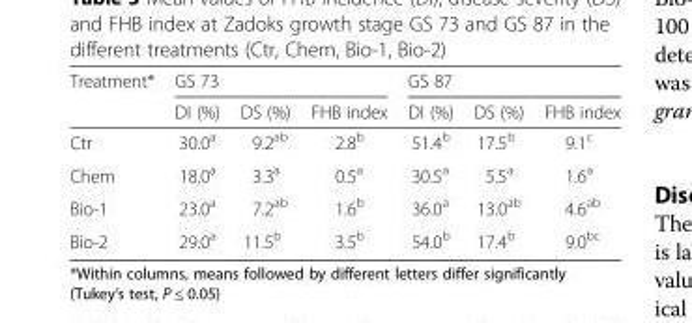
<table><thead><tr><td rowspan="2">Treatment*</td><td colspan="3">GS 73</td><td colspan="3">GS 87</td></tr><tr><td>DI (%)</td><td>DS (%)</td><td>FHB index</td><td>DI (%)</td><td>DS (%)</td><td>FHB index</td></tr></thead><tbody><tr><td>Ctr</td><td>30.0<sup>a</sup></td><td>9.2<sup>ab</sup></td><td>2.8<sup>b</sup></td><td>51.4<sup>b</sup></td><td>17.5<sup>b</sup></td><td>9.1<sup>c</sup></td></tr><tr><td>Chem</td><td>18.0<sup>a</sup></td><td>3.3<sup>a</sup></td><td>0.5<sup>a</sup></td><td>30.5<sup>a</sup></td><td>5.5<sup>a</sup></td><td>1.6<sup>a</sup></td></tr><tr><td>Bio-1</td><td>23.0<sup>a</sup></td><td>7.2<sup>ab</sup></td><td>1.6<sup>b</sup></td><td>36.0<sup>a</sup></td><td>13.0<sup>ab</sup></td><td>4.6<sup>ab</sup></td></tr><tr><td>Bio-2</td><td>29.0<sup>a</sup></td><td>11.5<sup>b</sup></td><td>3.5<sup>b</sup></td><td>54.0<sup>b</sup></td><td>17.4<sup>b</sup></td><td>9.0<sup>bc</sup></td></tr></tbody></table>